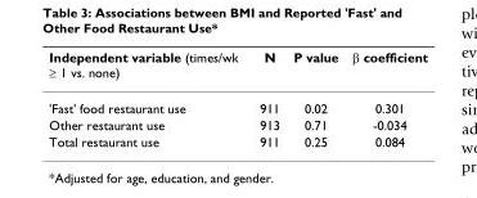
<table><thead><tr><td>Independent variable (times/wk ≥ 1 vs. none)</td><td>N</td><td>P value</td><td>β coefficient</td></tr></thead><tbody><tr><td>&#x27;Fast&#x27; food restaurant use</td><td>911</td><td>0.02</td><td>0.301</td></tr><tr><td>Other restaurant use</td><td>913</td><td>0.71</td><td>-0.034</td></tr><tr><td>Total restaurant use</td><td>911</td><td>0.25</td><td>0.084</td></tr></tbody></table>